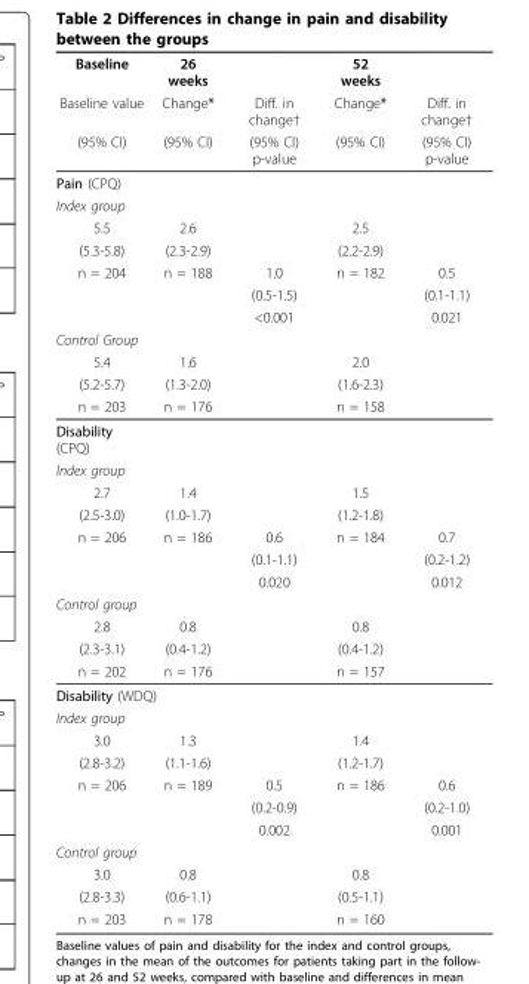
<table><thead><tr><td rowspan="3">Baseline Baseline value (95% CI)</td><td rowspan="3">26 weeks Change* (95% CI)</td><td rowspan="3">Diff. in change† (95% CI) p-value</td><td rowspan="3">52 weeks Change* (95% CI)</td><td rowspan="3">Diff. in change† (95% CI) p-value</td></tr><tr></tr><tr></tr></thead><tbody><tr><td colspan="5">Pain (CPQ)</td></tr><tr><td colspan="5">Index group</td></tr><tr><td>5.5</td><td>2.6</td><td></td><td>2.5</td><td></td></tr><tr><td>(5.3-5.8)</td><td>(2.3-2.9)</td><td></td><td>(2.2-2.9)</td><td></td></tr><tr><td rowspan="3">n = 204</td><td>n = 188</td><td>1.0</td><td>n = 182</td><td>0.5</td></tr><tr><td></td><td>(0.5-1.5)</td><td></td><td>(0.1-1.1)</td></tr><tr><td></td><td>&lt;0.001</td><td></td><td>0.021</td></tr><tr><td colspan="5">Control Group</td></tr><tr><td>5.4</td><td>1.6</td><td></td><td>2.0</td><td></td></tr><tr><td>(5.2-5.7)</td><td>(1.3-2.0)</td><td></td><td>(1.6-2.3)</td><td></td></tr><tr><td>n = 203</td><td>n = 176</td><td></td><td>n = 158</td><td></td></tr><tr><td colspan="5">Disability (CPQ)</td></tr><tr><td colspan="5">Index group</td></tr><tr><td>2.7</td><td>1.4</td><td></td><td>1.5</td><td></td></tr><tr><td>(2.5-3.0)</td><td>(1.0-1.7)</td><td></td><td>(1.2-1.8)</td><td></td></tr><tr><td rowspan="3">n = 206</td><td>n = 186</td><td>0.6</td><td>n = 184</td><td>0.7</td></tr><tr><td></td><td>(0.1-1.1)</td><td></td><td>(0.2-1.2)</td></tr><tr><td></td><td>0.020</td><td></td><td>0.012</td></tr><tr><td colspan="5">Control group</td></tr><tr><td>2.8</td><td>0.8</td><td></td><td>0.8</td><td></td></tr><tr><td>(2.3-3.1)</td><td>(0.4-1.2)</td><td></td><td>(0.4-1.2)</td><td></td></tr><tr><td>n = 202</td><td>n = 176</td><td></td><td>n = 157</td><td></td></tr><tr><td colspan="5">Disability (WDQ)</td></tr><tr><td colspan="5">Index group</td></tr><tr><td>3.0</td><td>1.3</td><td></td><td>1.4</td><td></td></tr><tr><td>(2.8-3.2)</td><td>(1.1-1.6)</td><td></td><td>(1.2-1.7)</td><td></td></tr><tr><td rowspan="3">n = 206</td><td>n = 189</td><td>0.5</td><td>n = 186</td><td>0.6</td></tr><tr><td></td><td>(0.2-0.9)</td><td></td><td>(0.2-1.0)</td></tr><tr><td></td><td>0.002</td><td></td><td>0.001</td></tr><tr><td colspan="5">Control group</td></tr><tr><td>3.0</td><td>0.8</td><td></td><td>0.8</td><td></td></tr><tr><td>(2.8-3.3)</td><td>(0.6-1.1)</td><td></td><td>(0.5-1.1)</td><td></td></tr><tr><td>n = 203</td><td>n = 178</td><td></td><td>n = 160</td><td></td></tr></tbody></table>